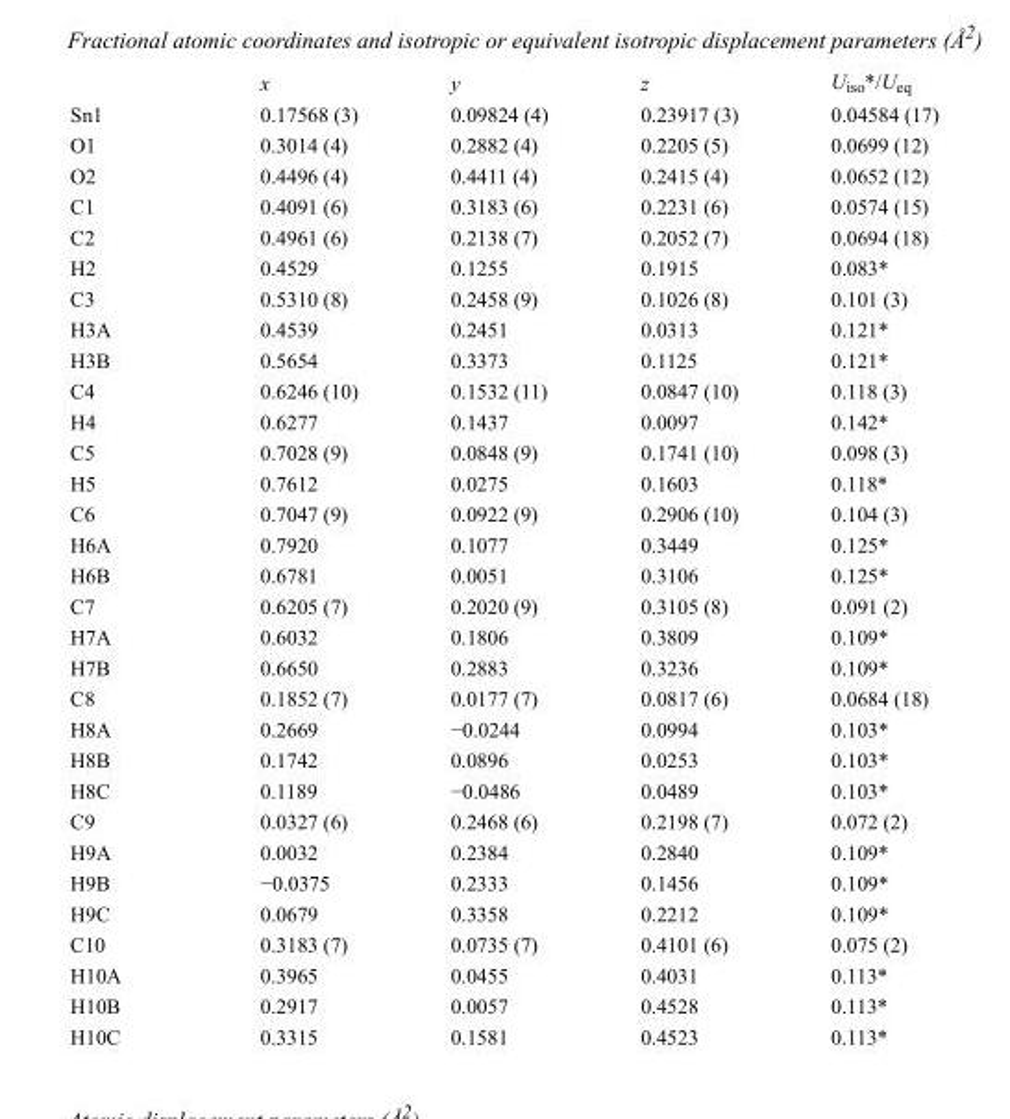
<table><thead><tr><td></td><td>x</td><td>y</td><td>z</td><td>U<sub>iso</sub>*/U<sub>eq</sub></td></tr></thead><tbody><tr><td>Sn1</td><td>0.17568 (3)</td><td>0.09824 (4)</td><td>0.23917 (3)</td><td>0.04584 (17)</td></tr><tr><td>O1</td><td>0.3014 (4)</td><td>0.2882 (4)</td><td>0.2205 (5)</td><td>0.0699 (12)</td></tr><tr><td>O2</td><td>0.4496 (4)</td><td>0.4411 (4)</td><td>0.2415 (4)</td><td>0.0652 (12)</td></tr><tr><td>C1</td><td>0.4091 (6)</td><td>0.3183 (6)</td><td>0.2231 (6)</td><td>0.0574 (15)</td></tr><tr><td>C2</td><td>0.4961 (6)</td><td>0.2138 (7)</td><td>0.2052 (7)</td><td>0.0694 (18)</td></tr><tr><td>H2</td><td>0.4529</td><td>0.1255</td><td>0.1915</td><td>0.083*</td></tr><tr><td>C3</td><td>0.5310 (8)</td><td>0.2458 (9)</td><td>0.1026 (8)</td><td>0.101 (3)</td></tr><tr><td>H3A</td><td>0.4539</td><td>0.2451</td><td>0.0313</td><td>0.121*</td></tr><tr><td>H3B</td><td>0.5654</td><td>0.3373</td><td>0.1125</td><td>0.121*</td></tr><tr><td>C4</td><td>0.6246 (10)</td><td>0.1532 (11)</td><td>0.0847 (10)</td><td>0.118 (3)</td></tr><tr><td>H4</td><td>0.6277</td><td>0.1437</td><td>0.0097</td><td>0.142*</td></tr><tr><td>C5</td><td>0.7028 (9)</td><td>0.0848 (9)</td><td>0.1741 (10)</td><td>0.098 (3)</td></tr><tr><td>H5</td><td>0.7612</td><td>0.0275</td><td>0.1603</td><td>0.118*</td></tr><tr><td>C6</td><td>0.7047 (9)</td><td>0.0922 (9)</td><td>0.2906 (10)</td><td>0.104 (3)</td></tr><tr><td>H6A</td><td>0.7920</td><td>0.1077</td><td>0.3449</td><td>0.125*</td></tr><tr><td>H6B</td><td>0.6781</td><td>0.0051</td><td>0.3106</td><td>0.125*</td></tr><tr><td>C7</td><td>0.6205 (7)</td><td>0.2020 (9)</td><td>0.3105 (8)</td><td>0.091 (2)</td></tr><tr><td>H7A</td><td>0.6032</td><td>0.1806</td><td>0.3809</td><td>0.109*</td></tr><tr><td>H7B</td><td>0.6650</td><td>0.2883</td><td>0.3236</td><td>0.109*</td></tr><tr><td>C8</td><td>0.1852 (7)</td><td>0.0177 (7)</td><td>0.0817 (6)</td><td>0.0684 (18)</td></tr><tr><td>H8A</td><td>0.2669</td><td>−0.0244</td><td>0.0994</td><td>0.103*</td></tr><tr><td>H8B</td><td>0.1742</td><td>0.0896</td><td>0.0253</td><td>0.103*</td></tr><tr><td>H8C</td><td>0.1189</td><td>−0.0486</td><td>0.0489</td><td>0.103*</td></tr><tr><td>C9</td><td>0.0327 (6)</td><td>0.2468 (6)</td><td>0.2198 (7)</td><td>0.072 (2)</td></tr><tr><td>H9A</td><td>0.0032</td><td>0.2384</td><td>0.2840</td><td>0.109*</td></tr><tr><td>H9B</td><td>−0.0375</td><td>0.2333</td><td>0.1456</td><td>0.109*</td></tr><tr><td>H9C</td><td>0.0679</td><td>0.3358</td><td>0.2212</td><td>0.109*</td></tr><tr><td>C10</td><td>0.3183 (7)</td><td>0.0735 (7)</td><td>0.4101 (6)</td><td>0.075 (2)</td></tr><tr><td>H10A</td><td>0.3965</td><td>0.0455</td><td>0.4031</td><td>0.113*</td></tr><tr><td>H10B</td><td>0.2917</td><td>0.0057</td><td>0.4528</td><td>0.113*</td></tr><tr><td>H10C</td><td>0.3315</td><td>0.1581</td><td>0.4523</td><td>0.113*</td></tr></tbody></table>